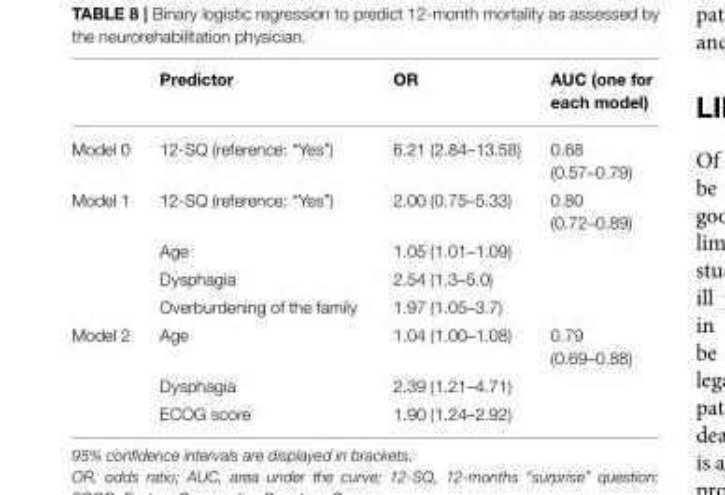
<table><thead><tr><td></td><td>Predictor</td><td>OR</td><td>AUC (one for each model)</td></tr></thead><tbody><tr><td>Model 0</td><td>12-SQ (reference: “Yes”)</td><td>6.21 (2.84–13.58)</td><td>0.68 (0.57–0.79)</td></tr><tr><td rowspan="4">Model 1</td><td>12-SQ (reference: “Yes”)</td><td>2.00 (0.75–5.33)</td><td>0.80 (0.72–0.89)</td></tr><tr><td>Age</td><td>1.05 (1.01–1.09)</td><td></td></tr><tr><td>Dysphagia</td><td>2.54 (1.3–5.0)</td><td></td></tr><tr><td>Overburdening of the family</td><td>1.97 (1.05–3.7)</td><td></td></tr><tr><td rowspan="3">Model 2</td><td>Age</td><td>1.04 (1.00–1.08)</td><td>0.79 (0.69–0.88)</td></tr><tr><td>Dysphagia</td><td>2.39 (1.21–4.71)</td><td></td></tr><tr><td>ECOG score</td><td>1.90 (1.24–2.92)</td><td></td></tr></tbody></table>